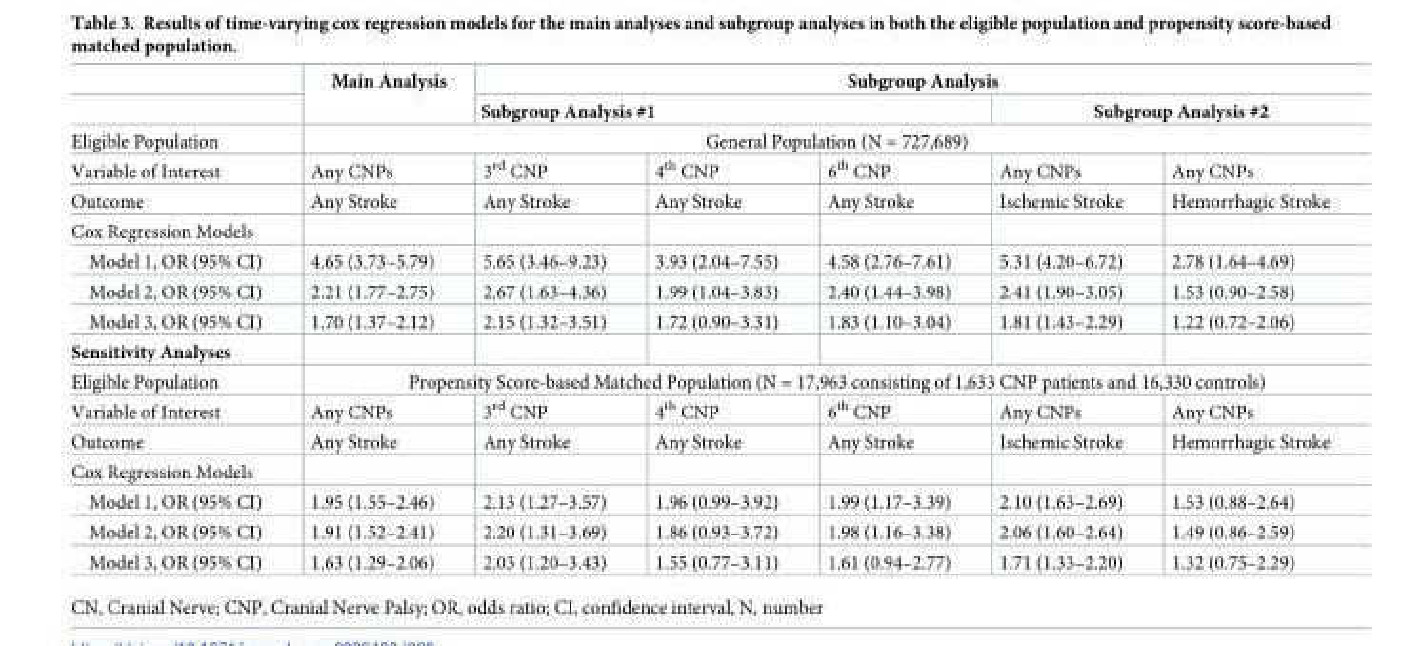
<table><thead><tr><td rowspan="4">Eligible Population Variable of Interest</td><td rowspan="2">Main Analysis</td><td colspan="5">Subgroup Analysis</td></tr><tr><td colspan="3">Subgroup Analysis #1</td><td colspan="2">Subgroup Analysis #2</td></tr><tr><td colspan="6">General Population (N = 727,689)</td></tr><tr><td>Any CNPs</td><td>3<sup>rd</sup> CNP</td><td>4<sup>th</sup> CNP</td><td>6<sup>th</sup> CNP</td><td>Any CNPs</td><td>Any CNPs</td></tr></thead><tbody><tr><td>Outcome</td><td>Any Stroke</td><td>Any Stroke</td><td>Any Stroke</td><td>Any Stroke</td><td>Ischemic Stroke</td><td>Hemorrhagic Stroke</td></tr><tr><td colspan="7">Cox Regression Models</td></tr><tr><td>Model 1, OR (95% CI)</td><td>4.65 (3.73–5.79)</td><td>5.65 (3.46–9.23)</td><td>3.93 (2.04–7.55)</td><td>4.58 (2.76–7.61)</td><td>5.31 (4.20–6.72)</td><td>2.78 (1.64–4.69)</td></tr><tr><td>Model 2, OR (95% CI)</td><td>2.21 (1.77–2.75)</td><td>2.67 (1.63–4.36)</td><td>1.99 (1.04–3.83)</td><td>2.40 (1.44–3.98)</td><td>2.41 (1.90–3.05)</td><td>1.53 (0.90–2.58)</td></tr><tr><td>Model 3, OR (95% CI)</td><td>1.70 (1.37–2.12)</td><td>2.15 (1.32–3.51)</td><td>1.72 (0.90–3.31)</td><td>1.83 (1.10–3.04)</td><td>1.81 (1.43–2.29)</td><td>1.22 (0.72–2.06)</td></tr><tr><td colspan="7">Sensitivity Analyses</td></tr><tr><td>Eligible Population</td><td colspan="6">Propensity Score-based Matched Population (N = 17,963 consisting of 1,633 CNP patients and 16,330 controls)</td></tr><tr><td>Variable of Interest</td><td>Any CNPs</td><td>3<sup>rd</sup> CNP</td><td>4<sup>th</sup> CNP</td><td>6<sup>th</sup> CNP</td><td>Any CNPs</td><td>Any CNPs</td></tr><tr><td>Outcome</td><td>Any Stroke</td><td>Any Stroke</td><td>Any Stroke</td><td>Any Stroke</td><td>Ischemic Stroke</td><td>Hemorrhagic Stroke</td></tr><tr><td colspan="7">Cox Regression Models</td></tr><tr><td>Model 1, OR (95% CI)</td><td>1.95 (1.55–2.46)</td><td>2.13 (1.27–3.57)</td><td>1.96 (0.99–3.92)</td><td>1.99 (1.17–3.39)</td><td>2.10 (1.63–2.69)</td><td>1.53 (0.88–2.64)</td></tr><tr><td>Model 2, OR (95% CI)</td><td>1.91 (1.52–2.41)</td><td>2.20 (1.31–3.69)</td><td>1.86 (0.93–3.72)</td><td>1.98 (1.16–3.38)</td><td>2.06 (1.60–2.64)</td><td>1.49 (0.86–2.59)</td></tr><tr><td>Model 3, OR (95% CI)</td><td>1.63 (1.29–2.06)</td><td>2.03 (1.20–3.43)</td><td>1.55 (0.77–3.11)</td><td>1.61 (0.94–2.77)</td><td>1.71 (1.33–2.20)</td><td>1.32 (0.75–2.29)</td></tr></tbody></table>